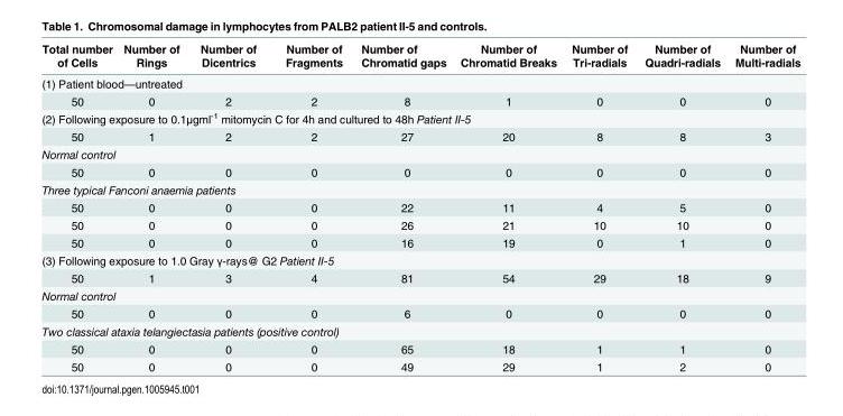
<table><thead><tr><td>Total number of Cells</td><td>Number of Rings</td><td>Number of Dicentrics</td><td>Number of Fragments</td><td>Number of Chromatid gaps</td><td>Number of Chromatid Breaks</td><td>Number of Tri-radials</td><td>Number of Quadri-radials</td><td>Number of Multi-radials</td></tr></thead><tbody><tr><td colspan="9">(1) Patient blood—untreated</td></tr><tr><td>50</td><td>0</td><td>2</td><td>2</td><td>8</td><td>1</td><td>0</td><td>0</td><td>0</td></tr><tr><td colspan="9">(2) Following exposure to 0.1μgml<sup>-1</sup> mitomycin C for 4h and cultured to 48h Patient II-5</td></tr><tr><td>50</td><td>1</td><td>2</td><td>2</td><td>27</td><td>20</td><td>8</td><td>8</td><td>3</td></tr><tr><td colspan="9">Normal control</td></tr><tr><td>50</td><td>0</td><td>0</td><td>0</td><td>0</td><td>0</td><td>0</td><td>0</td><td>0</td></tr><tr><td colspan="9">Three typical Fanconi anaemia patients</td></tr><tr><td>50</td><td>0</td><td>0</td><td>0</td><td>22</td><td>11</td><td>4</td><td>5</td><td>0</td></tr><tr><td>50</td><td>0</td><td>0</td><td>0</td><td>26</td><td>21</td><td>10</td><td>10</td><td>0</td></tr><tr><td>50</td><td>0</td><td>0</td><td>0</td><td>16</td><td>19</td><td>0</td><td>1</td><td>0</td></tr><tr><td colspan="9">(3) Following exposure to 1.0 Gray γ-rays@ G2 Patient II-5</td></tr><tr><td>50</td><td>1</td><td>3</td><td>4</td><td>81</td><td>54</td><td>29</td><td>18</td><td>9</td></tr><tr><td colspan="9">Normal control</td></tr><tr><td>50</td><td>0</td><td>0</td><td>0</td><td>6</td><td>0</td><td>0</td><td>0</td><td>0</td></tr><tr><td colspan="9">Two classical ataxia telangiectasia patients (positive control)</td></tr><tr><td>50</td><td>0</td><td>0</td><td>0</td><td>65</td><td>18</td><td>1</td><td>1</td><td>0</td></tr><tr><td>50</td><td>0</td><td>0</td><td>0</td><td>49</td><td>29</td><td>1</td><td>2</td><td>0</td></tr></tbody></table>